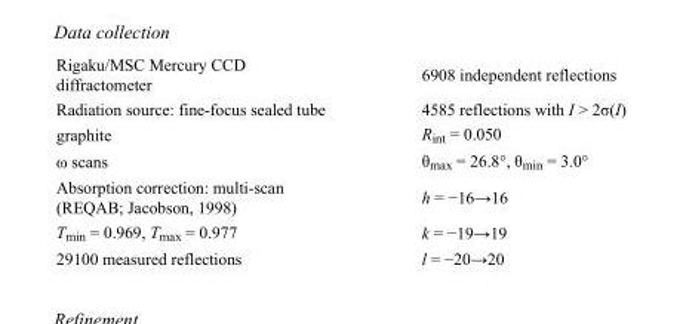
<table><tbody><tr><td>Rigaku/MSC Mercury CCD diffractometer</td><td>6908 independent reflections</td></tr><tr><td>Radiation source: fine-focus sealed tube</td><td>4585 reflections with I &gt; 2σ(I)</td></tr><tr><td>graphite</td><td>R<sub>int</sub> = 0.050</td></tr><tr><td>ω scans</td><td>θ<sub>max</sub> = 26.8°, θ<sub>min</sub> = 3.0°</td></tr><tr><td>Absorption correction: multi-scan (REQAB; Jacobson, 1998)</td><td>h = −16→16</td></tr><tr><td>T<sub>min</sub> = 0.969, T<sub>max</sub> = 0.977</td><td>k = −19→19</td></tr><tr><td>29100 measured reflections</td><td>l = −20→20</td></tr></tbody></table>